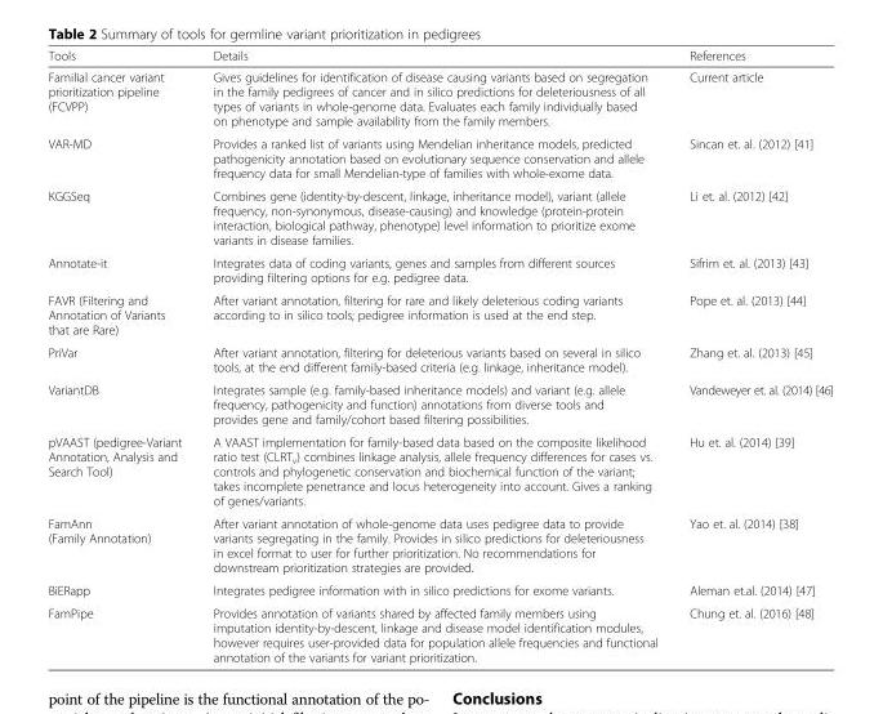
<table><thead><tr><td>Tools</td><td>Details</td><td>References</td></tr></thead><tbody><tr><td>Familial cancer variant prioritization pipeline (FCVPP)</td><td>Gives guidelines for identification of disease causing variants based on segregation in the family pedigrees of cancer and in silico predictions for deleteriousness of all types of variants in whole-genome data. Evaluates each family individually based on phenotype and sample availability from the family members.</td><td>Current article</td></tr><tr><td>VAR-MD</td><td>Provides a ranked list of variants using Mendelian inheritance models, predicted pathogenicity annotation based on evolutionary sequence conservation and allele frequency data for small Mendelian-type of families with whole-exome data.</td><td>Sincan et. al. (2012) [41]</td></tr><tr><td>KGGSeq</td><td>Combines gene (identity-by-descent, linkage, inheritance model), variant (allele frequency, non-synonymous, disease-causing) and knowledge (protein-protein interaction, biological pathway, phenotype) level information to prioritize exome variants in disease families.</td><td>Li et. al. (2012) [42]</td></tr><tr><td>Annotate-it</td><td>Integrates data of coding variants, genes and samples from different sources providing filtering options for e.g. pedigree data.</td><td>Sifrim et. al. (2013) [43]</td></tr><tr><td>FAVR (Filtering and Annotation of Variants that are Rare)</td><td>After variant annotation, filtering for rare and likely deleterious coding variants according to in silico tools; pedigree information is used at the end step.</td><td>Pope et. al. (2013) [44]</td></tr><tr><td>PriVar</td><td>After variant annotation, filtering for deleterious variants based on several in silico tools, at the end different family-based criteria (e.g. linkage, inheritance model).</td><td>Zhang et. al. (2013) [45]</td></tr><tr><td>VariantDB</td><td>Integrates sample (e.g. family-based inheritance models) and variant (e.g. allele frequency, pathogenicity and function) annotations from diverse tools and provides gene and family/cohort based filtering possibilities.</td><td>Vandeweyer et. al. (2014) [46]</td></tr><tr><td>pVAAST (pedigree-Variant Annotation, Analysis and Search Tool)</td><td>A VAAST implementation for family-based data based on the composite likelihood ratio test (CLRT<sub>v</sub>) combines linkage analysis, allele frequency differences for cases vs. controls and phylogenetic conservation and biochemical function of the variant; takes incomplete penetrance and locus heterogeneity into account. Gives a ranking of genes/variants.</td><td>Hu et. al. (2014) [39]</td></tr><tr><td>FamAnn (Family Annotation)</td><td>After variant annotation of whole-genome data uses pedigree data to provide variants segregating in the family. Provides in silico predictions for deleteriousness in excel format to user for further prioritization. No recommendations for downstream prioritization strategies are provided.</td><td>Yao et. al. (2014) [38]</td></tr><tr><td>BiERapp</td><td>Integrates pedigree information with in silico predictions for exome variants.</td><td>Aleman et.al. (2014) [47]</td></tr><tr><td>FamPipe</td><td>Provides annotation of variants shared by affected family members using imputation identity-by-descent, linkage and disease model identification modules, however requires user-provided data for population allele frequencies and functional annotation of the variants for variant prioritization.</td><td>Chung et. al. (2016) [48]</td></tr></tbody></table>